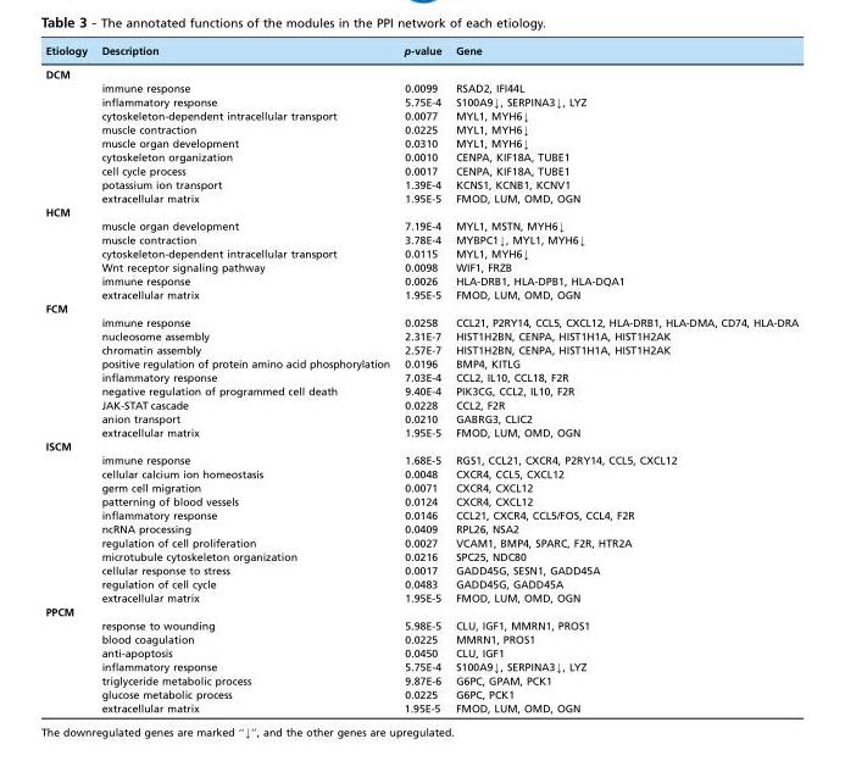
<table><thead><tr><td>Etiology</td><td>Description</td><td>p-value</td><td>Gene</td></tr></thead><tbody><tr><td colspan="4">DCM</td></tr><tr><td></td><td>immune response</td><td>0.0099</td><td>RSAD2, IFI44L</td></tr><tr><td></td><td>inflammatory response</td><td>5.75E-4</td><td>S100A9↓, SERPINA3↓, LYZ</td></tr><tr><td></td><td>cytoskeleton-dependent intracellular transport</td><td>0.0077</td><td>MYL1, MYH6↓</td></tr><tr><td></td><td>muscle contraction</td><td>0.0225</td><td>MYL1, MYH6↓</td></tr><tr><td></td><td>muscle organ development</td><td>0.0310</td><td>MYL1, MYH6↓</td></tr><tr><td></td><td>cytoskeleton organization</td><td>0.0010</td><td>CENPA, KIF18A, TUBE1</td></tr><tr><td></td><td>cell cycle process</td><td>0.0017</td><td>CENPA, KIF18A, TUBE1</td></tr><tr><td></td><td>potassium ion transport</td><td>1.39E-4</td><td>KCNS1, KCNB1, KCNV1</td></tr><tr><td></td><td>extracellular matrix</td><td>1.95E-5</td><td>FMOD, LUM, OMD, OGN</td></tr><tr><td colspan="4">HCM</td></tr><tr><td></td><td>muscle organ development</td><td>7.19E-4</td><td>MYL1, MSTN, MYH6↓</td></tr><tr><td></td><td>muscle contraction</td><td>3.78E-4</td><td>MYBPC1↓, MYL1, MYH6↓</td></tr><tr><td></td><td>cytoskeleton-dependent intracellular transport</td><td>0.0115</td><td>MYL1, MYH6↓</td></tr><tr><td></td><td>Wnt receptor signaling pathway</td><td>0.0098</td><td>WIF1, FRZB</td></tr><tr><td></td><td>immune response</td><td>0.0026</td><td>HLA-DRB1, HLA-DPB1, HLA-DQA1</td></tr><tr><td></td><td>extracellular matrix</td><td>1.95E-5</td><td>FMOD, LUM, OMD, OGN</td></tr><tr><td colspan="4">FCM</td></tr><tr><td></td><td>immune response</td><td>0.0258</td><td>CCL21, P2RY14, CCL5, CXCL12, HLA-DRB1, HLA-DMA, CD74, HLA-DRA</td></tr><tr><td></td><td>nucleosome assembly</td><td>2.31E-7</td><td>HIST1H2BN, CENPA, HIST1H1A, HIST1H2AK</td></tr><tr><td></td><td>chromatin assembly</td><td>2.57E-7</td><td>HIST1H2BN, CENPA, HIST1H1A, HIST1H2AK</td></tr><tr><td></td><td>positive regulation of protein amino acid phosphorylation</td><td>0.0196</td><td>BMP4, KITLG</td></tr><tr><td></td><td>inflammatory response</td><td>7.03E-4</td><td>CCL2, IL10, CCL18, F2R</td></tr><tr><td></td><td>negative regulation of programmed cell death</td><td>9.40E-4</td><td>PIK3CG, CCL2, IL10, F2R</td></tr><tr><td></td><td>JAK-STAT cascade</td><td>0.0228</td><td>CCL2, F2R</td></tr><tr><td></td><td>anion transport</td><td>0.0210</td><td>GABRG3, CLIC2</td></tr><tr><td></td><td>extracellular matrix</td><td>1.95E-5</td><td>FMOD, LUM, OMD, OGN</td></tr><tr><td colspan="4">ISCM</td></tr><tr><td></td><td>immune response</td><td>1.68E-5</td><td>RGS1, CCL21, CXCR4, P2RY14, CCL5, CXCL12</td></tr><tr><td></td><td>cellular calcium ion homeostasis</td><td>0.0048</td><td>CXCR4, CCL5, CXCL12</td></tr><tr><td></td><td>germ cell migration</td><td>0.0071</td><td>CXCR4, CXCL12</td></tr><tr><td></td><td>patterning of blood vessels</td><td>0.0124</td><td>CXCR4, CXCL12</td></tr><tr><td></td><td>inflammatory response</td><td>0.0146</td><td>CCL21, CXCR4, CCL5/FOS, CCL4, F2R</td></tr><tr><td></td><td>ncRNA processing</td><td>0.0409</td><td>RPL26, NSA2</td></tr><tr><td></td><td>regulation of cell proliferation</td><td>0.0027</td><td>VCAM1, BMP4, SPARC, F2R, HTR2A</td></tr><tr><td></td><td>microtubule cytoskeleton organization</td><td>0.0216</td><td>SPC25, NDC80</td></tr><tr><td></td><td>cellular response to stress</td><td>0.0017</td><td>GADD45G, SESN1, GADD45A</td></tr><tr><td></td><td>regulation of cell cycle</td><td>0.0483</td><td>GADD45G, GADD45A</td></tr><tr><td></td><td>extracellular matrix</td><td>1.95E-5</td><td>FMOD, LUM, OMD, OGN</td></tr><tr><td colspan="4">PPCM</td></tr><tr><td></td><td>response to wounding</td><td>5.98E-5</td><td>CLU, IGF1, MMRN1, PROS1</td></tr><tr><td></td><td>blood coagulation</td><td>0.0225</td><td>MMRN1, PROS1</td></tr><tr><td></td><td>anti-apoptosis</td><td>0.0450</td><td>CLU, IGF1</td></tr><tr><td></td><td>inflammatory response</td><td>5.75E-4</td><td>S100A9↓, SERPINA3↓, LYZ</td></tr><tr><td></td><td>triglyceride metabolic process</td><td>9.87E-6</td><td>G6PC, GPAM, PCK1</td></tr><tr><td></td><td>glucose metabolic process</td><td>0.0225</td><td>G6PC, PCK1</td></tr><tr><td></td><td>extracellular matrix</td><td>1.95E-5</td><td>FMOD, LUM, OMD, OGN</td></tr></tbody></table>